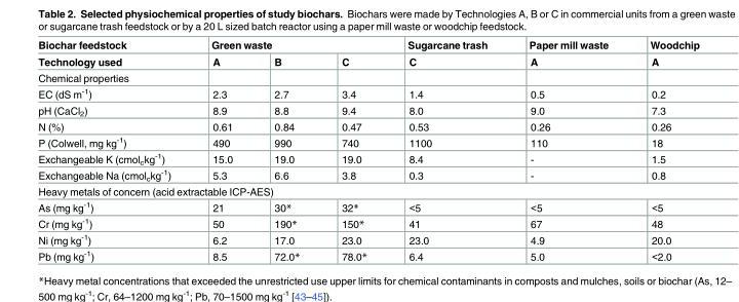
<table><thead><tr><td rowspan="2">Biochar feedstock Technology used</td><td colspan="3">Green waste</td><td rowspan="2">Sugarcane trash C</td><td rowspan="2">Paper mill waste A</td><td rowspan="2">Woodchip A</td></tr><tr><td>A</td><td>B</td><td>C</td></tr></thead><tbody><tr><td colspan="7">Chemical properties</td></tr><tr><td>EC (dS m<sup>-1</sup>)</td><td>2.3</td><td>2.7</td><td>3.4</td><td>1.4</td><td>0.5</td><td>0.2</td></tr><tr><td>pH (CaCl<sub>2</sub>)</td><td>8.9</td><td>8.8</td><td>9.4</td><td>8.0</td><td>9.0</td><td>7.3</td></tr><tr><td>N (%)</td><td>0.61</td><td>0.84</td><td>0.47</td><td>0.53</td><td>0.26</td><td>0.26</td></tr><tr><td>P (Colwell, mg kg<sup>-1</sup>)</td><td>490</td><td>990</td><td>740</td><td>1100</td><td>110</td><td>18</td></tr><tr><td>Exchangeable K (cmol<sub>c</sub>kg<sup>-1</sup>)</td><td>15.0</td><td>19.0</td><td>19.0</td><td>8.4</td><td>-</td><td>1.5</td></tr><tr><td>Exchangeable Na (cmol<sub>c</sub>kg<sup>-1</sup>)</td><td>5.3</td><td>6.6</td><td>3.8</td><td>0.3</td><td>-</td><td>0.8</td></tr><tr><td colspan="7">Heavy metals of concern (acid extractable ICP-AES)</td></tr><tr><td>As (mg kg<sup>-1</sup>)</td><td>21</td><td>30*</td><td>32*</td><td>&lt;5</td><td>&lt;5</td><td>&lt;5</td></tr><tr><td>Cr (mg kg<sup>-1</sup>)</td><td>50</td><td>190*</td><td>150*</td><td>41</td><td>67</td><td>48</td></tr><tr><td>Ni (mg kg<sup>-1</sup>)</td><td>6.2</td><td>17.0</td><td>23.0</td><td>23.0</td><td>4.9</td><td>20.0</td></tr><tr><td>Pb (mg kg<sup>-1</sup>)</td><td>8.5</td><td>72.0*</td><td>78.0*</td><td>6.4</td><td>5.0</td><td>&lt;2.0</td></tr></tbody></table>